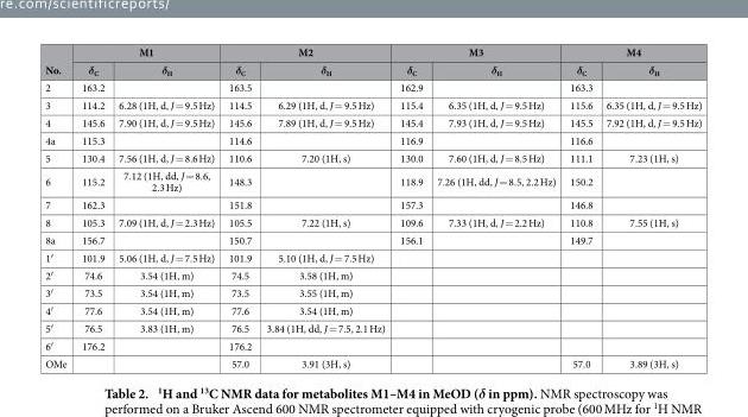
<table><thead><tr><td rowspan="2">No.</td><td colspan="2">M1</td><td colspan="2">M2</td><td colspan="2">M3</td><td colspan="2">M4</td></tr><tr><td>δ<sub>C</sub></td><td>δ<sub>H</sub></td><td>δ<sub>C</sub></td><td>δ<sub>H</sub></td><td>δ<sub>C</sub></td><td>δ<sub>H</sub></td><td>δ<sub>C</sub></td><td>δ<sub>H</sub></td></tr></thead><tbody><tr><td>2</td><td>163.2</td><td></td><td>163.5</td><td></td><td>162.9</td><td></td><td>163.3</td><td></td></tr><tr><td>3</td><td>114.2</td><td>6.28 (1H, d, J = 9.5 Hz)</td><td>114.5</td><td>6.29 (1H, d, J = 9.5 Hz)</td><td>115.4</td><td>6.35 (1H, d, J = 9.5 Hz)</td><td>115.6</td><td>6.35 (1H, d, J = 9.5 Hz)</td></tr><tr><td>4</td><td>145.6</td><td>7.90 (1H, d, J = 9.5 Hz)</td><td>145.6</td><td>7.89 (1H, d, J = 9.5 Hz)</td><td>145.4</td><td>7.93 (1H, d, J = 9.5 Hz)</td><td>145.5</td><td>7.92 (1H, d, J = 9.5 Hz)</td></tr><tr><td>4a</td><td>115.3</td><td></td><td>114.6</td><td></td><td>116.9</td><td></td><td>116.6</td><td></td></tr><tr><td>5</td><td>130.4</td><td>7.56 (1H, d, J = 8.6 Hz)</td><td>110.6</td><td>7.20 (1H, s)</td><td>130.0</td><td>7.60 (1H, d, J = 8.5 Hz)</td><td>111.1</td><td>7.23 (1H, s)</td></tr><tr><td>6</td><td>115.2</td><td>7.12 (1H, dd, J = 8.6, 2.3 Hz)</td><td>148.3</td><td></td><td>118.9</td><td>7.26 (1H, dd, J = 8.5, 2.2 Hz)</td><td>150.2</td><td></td></tr><tr><td>7</td><td>162.3</td><td></td><td>151.8</td><td></td><td>157.3</td><td></td><td>146.8</td><td></td></tr><tr><td>8</td><td>105.3</td><td>7.09 (1H, d, J = 2.3 Hz)</td><td>105.5</td><td>7.22 (1H, s)</td><td>109.6</td><td>7.33 (1H, d, J = 2.2 Hz)</td><td>110.8</td><td>7.55 (1H, s)</td></tr><tr><td>8a</td><td>156.7</td><td></td><td>150.7</td><td></td><td>156.1</td><td></td><td>149.7</td><td></td></tr><tr><td>1′</td><td>101.9</td><td>5.06 (1H, d, J = 7.5 Hz)</td><td>101.9</td><td>5.10 (1H, d, J = 7.5 Hz)</td><td></td><td></td><td></td><td></td></tr><tr><td>2′</td><td>74.6</td><td>3.54 (1H, m)</td><td>74.5</td><td>3.58 (1H, m)</td><td></td><td></td><td></td><td></td></tr><tr><td>3′</td><td>73.5</td><td>3.54 (1H, m)</td><td>73.5</td><td>3.55 (1H, m)</td><td></td><td></td><td></td><td></td></tr><tr><td>4′</td><td>77.6</td><td>3.54 (1H, m)</td><td>77.6</td><td>3.54 (1H, m)</td><td></td><td></td><td></td><td></td></tr><tr><td>5′</td><td>76.5</td><td>3.83 (1H, m)</td><td>76.5</td><td>3.84 (1H, dd, J = 7.5, 2.1 Hz)</td><td></td><td></td><td></td><td></td></tr><tr><td>6′</td><td>176.2</td><td></td><td>176.2</td><td></td><td></td><td></td><td></td><td></td></tr><tr><td>OMe</td><td></td><td></td><td>57.0</td><td>3.91 (3H, s)</td><td></td><td></td><td>57.0</td><td>3.89 (3H, s)</td></tr></tbody></table>